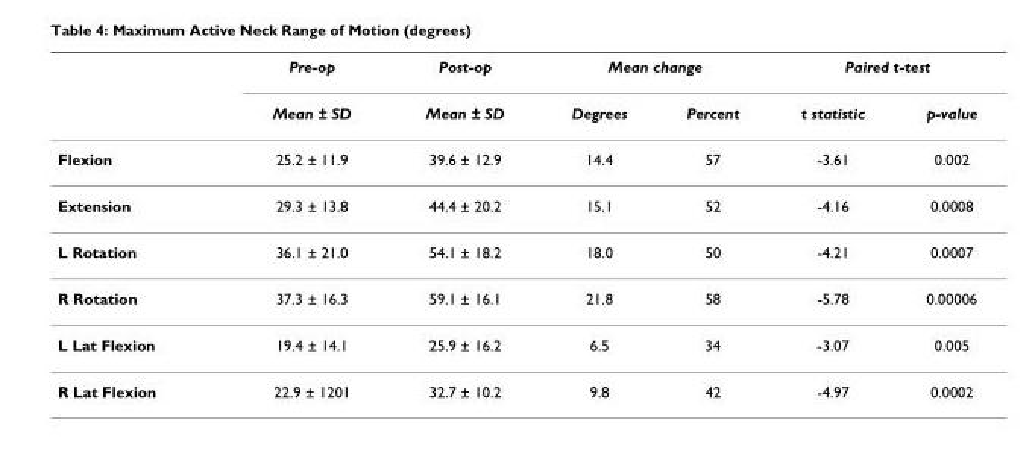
<table><thead><tr><td rowspan="2"></td><td rowspan="2">Pre-op Mean ± SD</td><td rowspan="2">Post-op Mean ± SD</td><td colspan="2">Mean change</td><td colspan="2">Paired t-test</td></tr><tr><td>Degrees</td><td>Percent</td><td>t statistic</td><td>p-value</td></tr></thead><tbody><tr><td>Flexion</td><td>25.2 ± 11.9</td><td>39.6 ± 12.9</td><td>14.4</td><td>57</td><td>-3.61</td><td>0.002</td></tr><tr><td>Extension</td><td>29.3 ± 13.8</td><td>44.4 ± 20.2</td><td>15.1</td><td>52</td><td>-4.16</td><td>0.0008</td></tr><tr><td>L Rotation</td><td>36.1 ± 21.0</td><td>54.1 ± 18.2</td><td>18.0</td><td>50</td><td>-4.21</td><td>0.0007</td></tr><tr><td>R Rotation</td><td>37.3 ± 16.3</td><td>59.1 ± 16.1</td><td>21.8</td><td>58</td><td>-5.78</td><td>0.00006</td></tr><tr><td>L Lat Flexion</td><td>19.4 ± 14.1</td><td>25.9 ± 16.2</td><td>6.5</td><td>34</td><td>-3.07</td><td>0.005</td></tr><tr><td>R Lat Flexion</td><td>22.9 ± 1201</td><td>32.7 ± 10.2</td><td>9.8</td><td>42</td><td>-4.97</td><td>0.0002</td></tr></tbody></table>